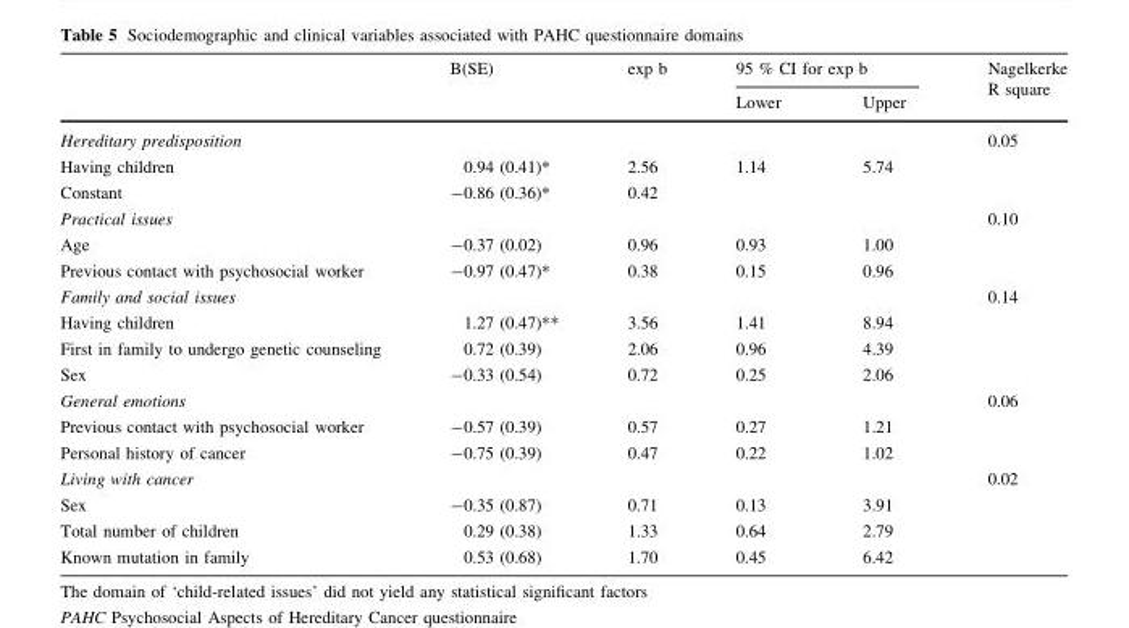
<table><thead><tr><td rowspan="2"></td><td rowspan="2">B(SE)</td><td rowspan="2">exp b</td><td colspan="2">95 % CI for exp b</td><td rowspan="2">Nagelkerke R square</td></tr><tr><td>Lower</td><td>Upper</td></tr></thead><tbody><tr><td colspan="5">Hereditary predisposition</td><td>0.05</td></tr><tr><td>Having children</td><td>0.94 (0.41)*</td><td>2.56</td><td>1.14</td><td>5.74</td><td></td></tr><tr><td>Constant</td><td>-0.86 (0.36)*</td><td>0.42</td><td></td><td></td><td></td></tr><tr><td colspan="5">Practical issues</td><td>0.10</td></tr><tr><td>Age</td><td>-0.37 (0.02)</td><td>0.96</td><td>0.93</td><td>1.00</td><td></td></tr><tr><td>Previous contact with psychosocial worker</td><td>-0.97 (0.47)*</td><td>0.38</td><td>0.15</td><td>0.96</td><td></td></tr><tr><td colspan="5">Family and social issues</td><td>0.14</td></tr><tr><td>Having children</td><td>1.27 (0.47)**</td><td>3.56</td><td>1.41</td><td>8.94</td><td></td></tr><tr><td>First in family to undergo genetic counseling</td><td>0.72 (0.39)</td><td>2.06</td><td>0.96</td><td>4.39</td><td></td></tr><tr><td>Sex</td><td>-0.33 (0.54)</td><td>0.72</td><td>0.25</td><td>2.06</td><td></td></tr><tr><td colspan="5">General emotions</td><td>0.06</td></tr><tr><td>Previous contact with psychosocial worker</td><td>-0.57 (0.39)</td><td>0.57</td><td>0.27</td><td>1.21</td><td></td></tr><tr><td>Personal history of cancer</td><td>-0.75 (0.39)</td><td>0.47</td><td>0.22</td><td>1.02</td><td></td></tr><tr><td colspan="5">Living with cancer</td><td>0.02</td></tr><tr><td>Sex</td><td>-0.35 (0.87)</td><td>0.71</td><td>0.13</td><td>3.91</td><td></td></tr><tr><td>Total number of children</td><td>0.29 (0.38)</td><td>1.33</td><td>0.64</td><td>2.79</td><td></td></tr><tr><td>Known mutation in family</td><td>0.53 (0.68)</td><td>1.70</td><td>0.45</td><td>6.42</td><td></td></tr></tbody></table>